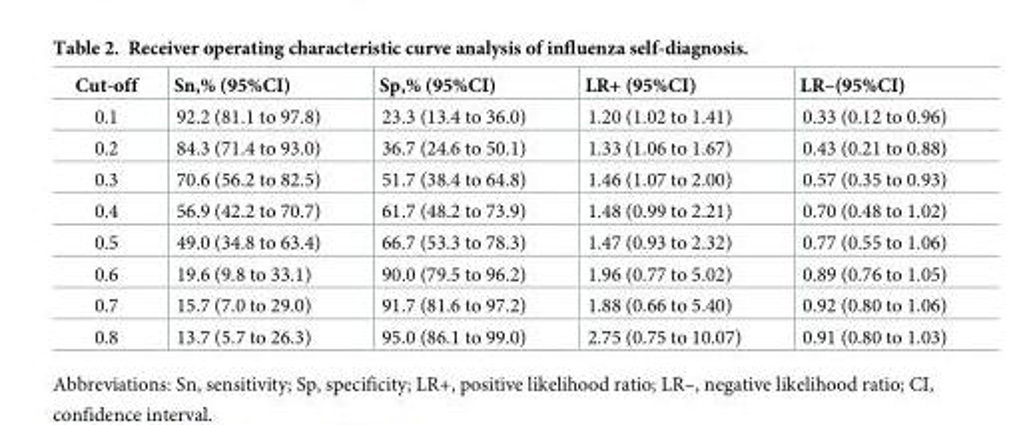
<table><thead><tr><td>Cut-off</td><td>Sn,% (95%CI)</td><td>Sp,% (95%CI)</td><td>LR+ (95%CI)</td><td>LR–(95%CI)</td></tr></thead><tbody><tr><td>0.1</td><td>92.2 (81.1 to 97.8)</td><td>23.3 (13.4 to 36.0)</td><td>1.20 (1.02 to 1.41)</td><td>0.33 (0.12 to 0.96)</td></tr><tr><td>0.2</td><td>84.3 (71.4 to 93.0)</td><td>36.7 (24.6 to 50.1)</td><td>1.33 (1.06 to 1.67)</td><td>0.43 (0.21 to 0.88)</td></tr><tr><td>0.3</td><td>70.6 (56.2 to 82.5)</td><td>51.7 (38.4 to 64.8)</td><td>1.46 (1.07 to 2.00)</td><td>0.57 (0.35 to 0.93)</td></tr><tr><td>0.4</td><td>56.9 (42.2 to 70.7)</td><td>61.7 (48.2 to 73.9)</td><td>1.48 (0.99 to 2.21)</td><td>0.70 (0.48 to 1.02)</td></tr><tr><td>0.5</td><td>49.0 (34.8 to 63.4)</td><td>66.7 (53.3 to 78.3)</td><td>1.47 (0.93 to 2.32)</td><td>0.77 (0.55 to 1.06)</td></tr><tr><td>0.6</td><td>19.6 (9.8 to 33.1)</td><td>90.0 (79.5 to 96.2)</td><td>1.96 (0.77 to 5.02)</td><td>0.89 (0.76 to 1.05)</td></tr><tr><td>0.7</td><td>15.7 (7.0 to 29.0)</td><td>91.7 (81.6 to 97.2)</td><td>1.88 (0.66 to 5.40)</td><td>0.92 (0.80 to 1.06)</td></tr><tr><td>0.8</td><td>13.7 (5.7 to 26.3)</td><td>95.0 (86.1 to 99.0)</td><td>2.75 (0.75 to 10.07)</td><td>0.91 (0.80 to 1.03)</td></tr></tbody></table>